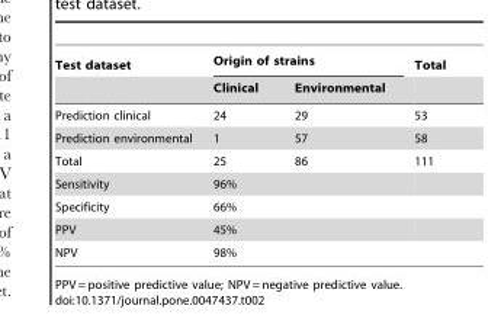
<table><thead><tr><td rowspan="2">Test dataset</td><td colspan="2">Origin of strains</td><td rowspan="2">Total</td></tr><tr><td>Clinical</td><td>Environmental</td></tr></thead><tbody><tr><td>Prediction clinical</td><td>24</td><td>29</td><td>53</td></tr><tr><td>Prediction environmental</td><td>1</td><td>57</td><td>58</td></tr><tr><td>Total</td><td>25</td><td>86</td><td>111</td></tr><tr><td>Sensitivity</td><td>96%</td><td></td><td></td></tr><tr><td>Specificity</td><td>66%</td><td></td><td></td></tr><tr><td>PPV</td><td>45%</td><td></td><td></td></tr><tr><td>NPV</td><td>98%</td><td></td><td></td></tr></tbody></table>